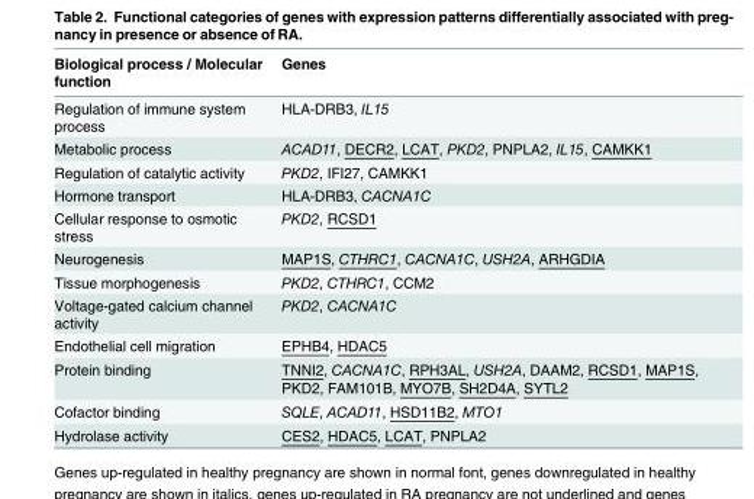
<table><thead><tr><td>Biological process / Molecular function</td><td>Genes</td></tr></thead><tbody><tr><td>Regulation of immune system process</td><td>HLA-DRB3, IL15</td></tr><tr><td>Metabolic process</td><td>ACAD11, DECR2, LCAT, PKD2, PNPLA2, IL15, CAMKK1</td></tr><tr><td>Regulation of catalytic activity</td><td>PKD2, IFI27, CAMKK1</td></tr><tr><td>Hormone transport</td><td>HLA-DRB3, CACNA1C</td></tr><tr><td>Cellular response to osmotic stress</td><td>PKD2, RCSD1</td></tr><tr><td>Neurogenesis</td><td>MAP1S, CTHRC1, CACNA1C, USH2A, ARHGDIA</td></tr><tr><td>Tissue morphogenesis</td><td>PKD2, CTHRC1, CCM2</td></tr><tr><td>Voltage-gated calcium channel activity</td><td>PKD2, CACNA1C</td></tr><tr><td>Endothelial cell migration</td><td>EPHB4, HDAC5</td></tr><tr><td>Protein binding</td><td>TNNI2, CACNA1C, RPH3AL, USH2A, DAAM2, RCSD1, MAP1S, PKD2, FAM101B, MYO7B, SH2D4A, SYTL2</td></tr><tr><td>Cofactor binding</td><td>SQLE, ACAD11, HSD11B2, MTO1</td></tr><tr><td>Hydrolase activity</td><td>CES2, HDAC5, LCAT, PNPLA2</td></tr></tbody></table>